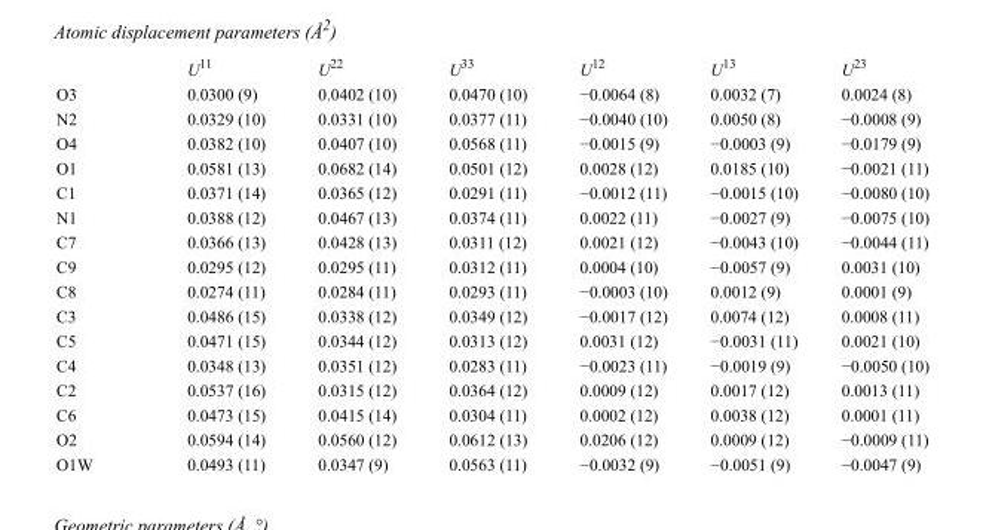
<table><thead><tr><td></td><td>U<sup>11</sup></td><td>U<sup>22</sup></td><td>U<sup>33</sup></td><td>U<sup>12</sup></td><td>U<sup>13</sup></td><td>U<sup>23</sup></td></tr></thead><tbody><tr><td>O3</td><td>0.0300 (9)</td><td>0.0402 (10)</td><td>0.0470 (10)</td><td>−0.0064 (8)</td><td>0.0032 (7)</td><td>0.0024 (8)</td></tr><tr><td>N2</td><td>0.0329 (10)</td><td>0.0331 (10)</td><td>0.0377 (11)</td><td>−0.0040 (10)</td><td>0.0050 (8)</td><td>−0.0008 (9)</td></tr><tr><td>O4</td><td>0.0382 (10)</td><td>0.0407 (10)</td><td>0.0568 (11)</td><td>−0.0015 (9)</td><td>−0.0003 (9)</td><td>−0.0179 (9)</td></tr><tr><td>O1</td><td>0.0581 (13)</td><td>0.0682 (14)</td><td>0.0501 (12)</td><td>0.0028 (12)</td><td>0.0185 (10)</td><td>−0.0021 (11)</td></tr><tr><td>C1</td><td>0.0371 (14)</td><td>0.0365 (12)</td><td>0.0291 (11)</td><td>−0.0012 (11)</td><td>−0.0015 (10)</td><td>−0.0080 (10)</td></tr><tr><td>N1</td><td>0.0388 (12)</td><td>0.0467 (13)</td><td>0.0374 (11)</td><td>0.0022 (11)</td><td>−0.0027 (9)</td><td>−0.0075 (10)</td></tr><tr><td>C7</td><td>0.0366 (13)</td><td>0.0428 (13)</td><td>0.0311 (12)</td><td>0.0021 (12)</td><td>−0.0043 (10)</td><td>−0.0044 (11)</td></tr><tr><td>C9</td><td>0.0295 (12)</td><td>0.0295 (11)</td><td>0.0312 (11)</td><td>0.0004 (10)</td><td>−0.0057 (9)</td><td>0.0031 (10)</td></tr><tr><td>C8</td><td>0.0274 (11)</td><td>0.0284 (11)</td><td>0.0293 (11)</td><td>−0.0003 (10)</td><td>0.0012 (9)</td><td>0.0001 (9)</td></tr><tr><td>C3</td><td>0.0486 (15)</td><td>0.0338 (12)</td><td>0.0349 (12)</td><td>−0.0017 (12)</td><td>0.0074 (12)</td><td>0.0008 (11)</td></tr><tr><td>C5</td><td>0.0471 (15)</td><td>0.0344 (12)</td><td>0.0313 (12)</td><td>0.0031 (12)</td><td>−0.0031 (11)</td><td>0.0021 (10)</td></tr><tr><td>C4</td><td>0.0348 (13)</td><td>0.0351 (12)</td><td>0.0283 (11)</td><td>−0.0023 (11)</td><td>−0.0019 (9)</td><td>−0.0050 (10)</td></tr><tr><td>C2</td><td>0.0537 (16)</td><td>0.0315 (12)</td><td>0.0364 (12)</td><td>0.0009 (12)</td><td>0.0017 (12)</td><td>0.0013 (11)</td></tr><tr><td>C6</td><td>0.0473 (15)</td><td>0.0415 (14)</td><td>0.0304 (11)</td><td>0.0002 (12)</td><td>0.0038 (12)</td><td>0.0001 (11)</td></tr><tr><td>O2</td><td>0.0594 (14)</td><td>0.0560 (12)</td><td>0.0612 (13)</td><td>0.0206 (12)</td><td>0.0009 (12)</td><td>−0.0009 (11)</td></tr><tr><td>O1W</td><td>0.0493 (11)</td><td>0.0347 (9)</td><td>0.0563 (11)</td><td>−0.0032 (9)</td><td>−0.0051 (9)</td><td>−0.0047 (9)</td></tr></tbody></table>